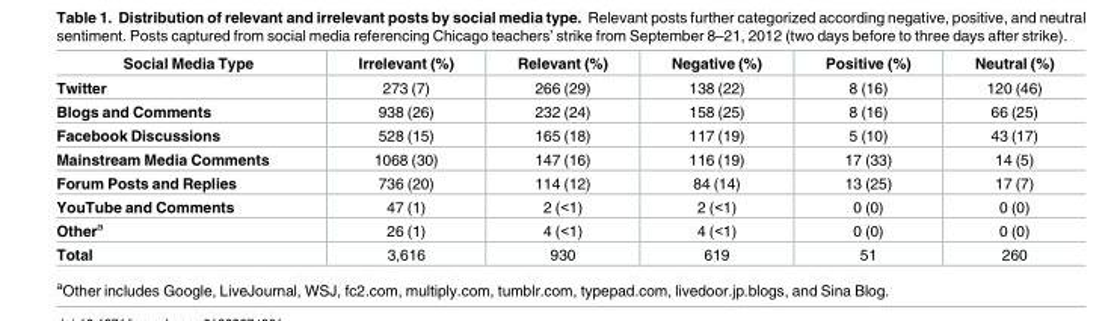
<table><thead><tr><td>Social Media Type</td><td>Irrelevant (%)</td><td>Relevant (%)</td><td>Negative (%)</td><td>Positive (%)</td><td>Neutral (%)</td></tr></thead><tbody><tr><td>Twitter</td><td>273 (7)</td><td>266 (29)</td><td>138 (22)</td><td>8 (16)</td><td>120 (46)</td></tr><tr><td>Blogs and Comments</td><td>938 (26)</td><td>232 (24)</td><td>158 (25)</td><td>8 (16)</td><td>66 (25)</td></tr><tr><td>Facebook Discussions</td><td>528 (15)</td><td>165 (18)</td><td>117 (19)</td><td>5 (10)</td><td>43 (17)</td></tr><tr><td>Mainstream Media Comments</td><td>1068 (30)</td><td>147 (16)</td><td>116 (19)</td><td>17 (33)</td><td>14 (5)</td></tr><tr><td>Forum Posts and Replies</td><td>736 (20)</td><td>114 (12)</td><td>84 (14)</td><td>13 (25)</td><td>17 (7)</td></tr><tr><td>YouTube and Comments</td><td>47 (1)</td><td>2 (&lt;1)</td><td>2 (&lt;1)</td><td>0 (0)</td><td>0 (0)</td></tr><tr><td>Other<sup>a</sup></td><td>26 (1)</td><td>4 (&lt;1)</td><td>4 (&lt;1)</td><td>0 (0)</td><td>0 (0)</td></tr><tr><td>Total</td><td>3,616</td><td>930</td><td>619</td><td>51</td><td>260</td></tr></tbody></table>